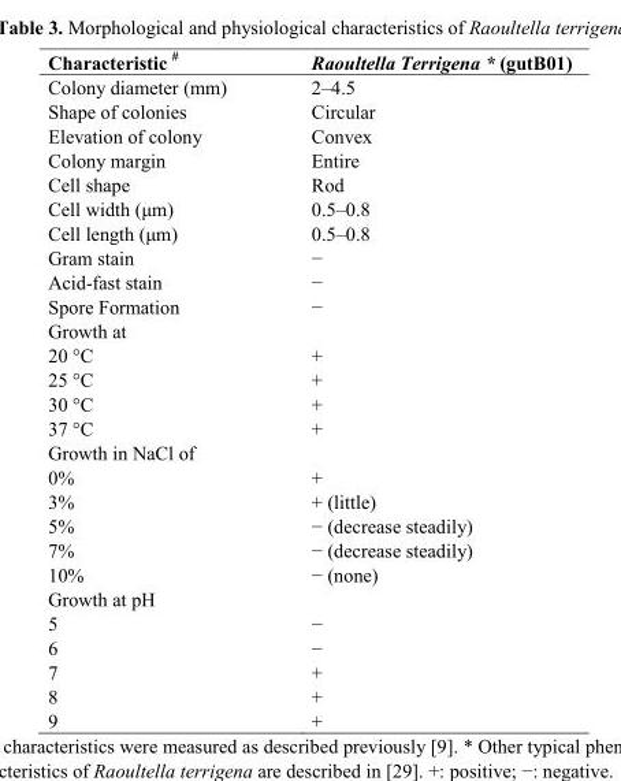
<table><thead><tr><td>Characteristic #</td><td>Raoultella Terrigena * (gutB01)</td></tr></thead><tbody><tr><td>Colony diameter (mm)</td><td>2–4.5</td></tr><tr><td>Shape of colonies</td><td>Circular</td></tr><tr><td>Elevation of colony</td><td>Convex</td></tr><tr><td>Colony margin</td><td>Entire</td></tr><tr><td>Cell shape</td><td>Rod</td></tr><tr><td>Cell width (μm)</td><td>0.5–0.8</td></tr><tr><td>Cell length (μm)</td><td>0.5–0.8</td></tr><tr><td>Gram stain</td><td>−</td></tr><tr><td>Acid-fast stain</td><td>−</td></tr><tr><td>Spore Formation</td><td>−</td></tr><tr><td colspan="2">Growth at</td></tr><tr><td>20 °C</td><td>+</td></tr><tr><td>25 °C</td><td>+</td></tr><tr><td>30 °C</td><td>+</td></tr><tr><td>37 °C</td><td>+</td></tr><tr><td colspan="2">Growth in NaCl of</td></tr><tr><td>0%</td><td>+</td></tr><tr><td>3%</td><td>+ (little)</td></tr><tr><td>5%</td><td>− (decrease steadily)</td></tr><tr><td>7%</td><td>− (decrease steadily)</td></tr><tr><td>10%</td><td>− (none)</td></tr><tr><td colspan="2">Growth at pH</td></tr><tr><td>5</td><td>−</td></tr><tr><td>6</td><td>−</td></tr><tr><td>7</td><td>+</td></tr><tr><td>8</td><td>+</td></tr><tr><td>9</td><td>+</td></tr></tbody></table>